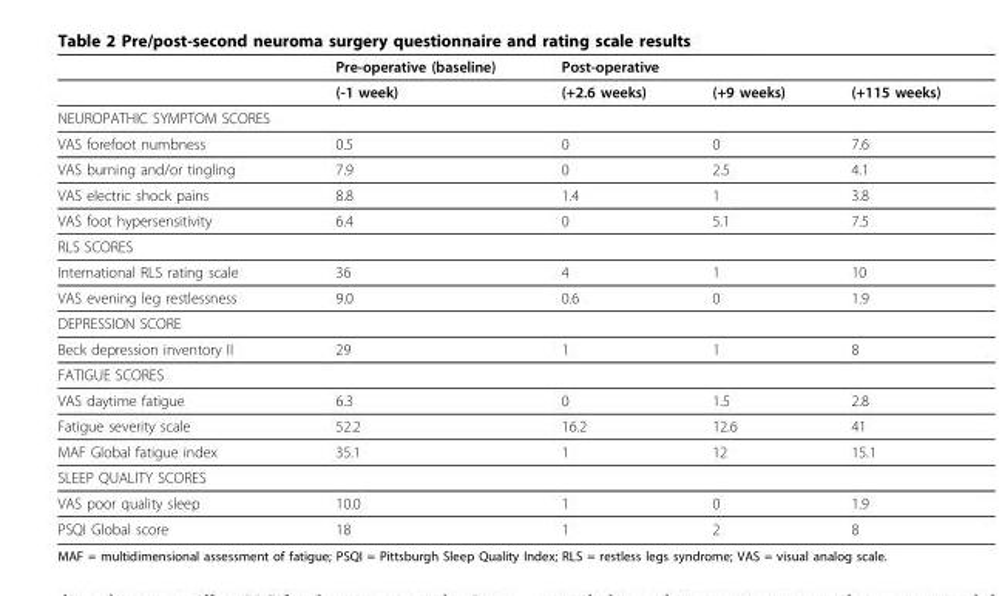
<table><thead><tr><td rowspan="2"></td><td rowspan="2">Pre-operative (baseline) (-1 week)</td><td colspan="3">Post-operative</td></tr><tr><td>(+2.6 weeks)</td><td>(+9 weeks)</td><td>(+115 weeks)</td></tr></thead><tbody><tr><td colspan="5">NEUROPATHIC SYMPTOM SCORES</td></tr><tr><td>VAS forefoot numbness</td><td>0.5</td><td>0</td><td>0</td><td>7.6</td></tr><tr><td>VAS burning and/or tingling</td><td>7.9</td><td>0</td><td>2.5</td><td>4.1</td></tr><tr><td>VAS electric shock pains</td><td>8.8</td><td>1.4</td><td>1</td><td>3.8</td></tr><tr><td>VAS foot hypersensitivity</td><td>6.4</td><td>0</td><td>5.1</td><td>7.5</td></tr><tr><td colspan="5">RLS SCORES</td></tr><tr><td>International RLS rating scale</td><td>36</td><td>4</td><td>1</td><td>10</td></tr><tr><td>VAS evening leg restlessness</td><td>9.0</td><td>0.6</td><td>0</td><td>1.9</td></tr><tr><td colspan="5">DEPRESSION SCORE</td></tr><tr><td>Beck depression inventory II</td><td>29</td><td>1</td><td>1</td><td>8</td></tr><tr><td colspan="5">FATIGUE SCORES</td></tr><tr><td>VAS daytime fatigue</td><td>6.3</td><td>0</td><td>1.5</td><td>2.8</td></tr><tr><td>Fatigue severity scale</td><td>52.2</td><td>16.2</td><td>12.6</td><td>41</td></tr><tr><td>MAF Global fatigue index</td><td>35.1</td><td>1</td><td>12</td><td>15.1</td></tr><tr><td colspan="5">SLEEP QUALITY SCORES</td></tr><tr><td>VAS poor quality sleep</td><td>10.0</td><td>1</td><td>0</td><td>1.9</td></tr><tr><td>PSQI Global score</td><td>18</td><td>1</td><td>2</td><td>8</td></tr></tbody></table>